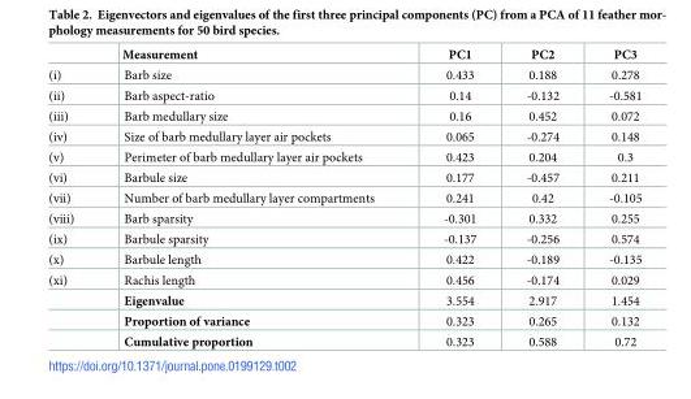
<table><thead><tr><td></td><td>Measurement</td><td>PC1</td><td>PC2</td><td>PC3</td></tr></thead><tbody><tr><td>(i)</td><td>Barb size</td><td>0.433</td><td>0.188</td><td>0.278</td></tr><tr><td>(ii)</td><td>Barb aspect-ratio</td><td>0.14</td><td>-0.132</td><td>-0.581</td></tr><tr><td>(iii)</td><td>Barb medullary size</td><td>0.16</td><td>0.452</td><td>0.072</td></tr><tr><td>(iv)</td><td>Size of barb medullary layer air pockets</td><td>0.065</td><td>-0.274</td><td>0.148</td></tr><tr><td>(v)</td><td>Perimeter of barb medullary layer air pockets</td><td>0.423</td><td>0.204</td><td>0.3</td></tr><tr><td>(vi)</td><td>Barbule size</td><td>0.177</td><td>-0.457</td><td>0.211</td></tr><tr><td>(vii)</td><td>Number of barb medullary layer compartments</td><td>0.241</td><td>0.42</td><td>-0.105</td></tr><tr><td>(viii)</td><td>Barb sparsity</td><td>-0.301</td><td>0.332</td><td>0.255</td></tr><tr><td>(ix)</td><td>Barbule sparsity</td><td>-0.137</td><td>-0.256</td><td>0.574</td></tr><tr><td>(x)</td><td>Barbule length</td><td>0.422</td><td>-0.189</td><td>-0.135</td></tr><tr><td rowspan="4">(xi)</td><td>Rachis length</td><td>0.456</td><td>-0.174</td><td>0.029</td></tr><tr><td>Eigenvalue</td><td>3.554</td><td>2.917</td><td>1.454</td></tr><tr><td>Proportion of variance</td><td>0.323</td><td>0.265</td><td>0.132</td></tr><tr><td>Cumulative proportion</td><td>0.323</td><td>0.588</td><td>0.72</td></tr></tbody></table>